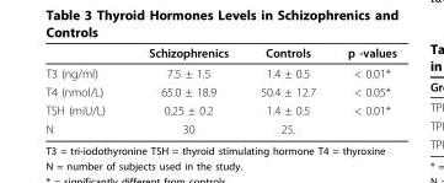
<table><thead><tr><td></td><td>Schizophrenics</td><td>Controls</td><td>p -values</td></tr></thead><tbody><tr><td>T3 (ng/ml)</td><td>7.5 ± 1.5</td><td>1.4 ± 0.5</td><td>&lt; 0.01*</td></tr><tr><td>T4 (nmol/L)</td><td>65.0 ± 18.9</td><td>50.4 ± 12.7</td><td>&lt; 0.05*</td></tr><tr><td>TSH (miU/L)</td><td>0.25 ± 0.2</td><td>1.4 ± 0.5</td><td>&lt; 0.01*</td></tr><tr><td>N</td><td>30</td><td>25.</td><td></td></tr></tbody></table>